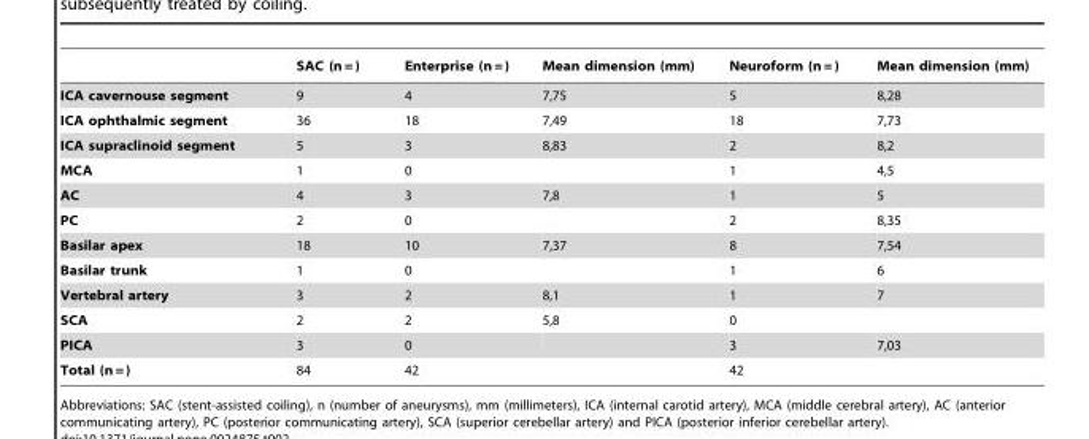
<table><thead><tr><td></td><td>SAC (n = )</td><td>Enterprise (n = )</td><td>Mean dimension (mm)</td><td>Neuroform (n = )</td><td>Mean dimension (mm)</td></tr></thead><tbody><tr><td>ICA cavernouse segment</td><td>9</td><td>4</td><td>7,75</td><td>5</td><td>8,28</td></tr><tr><td>ICA ophthalmic segment</td><td>36</td><td>18</td><td>7,49</td><td>18</td><td>7,73</td></tr><tr><td>ICA supraclinoid segment</td><td>5</td><td>3</td><td>8,83</td><td>2</td><td>8,2</td></tr><tr><td>MCA</td><td>1</td><td>0</td><td></td><td>1</td><td>4,5</td></tr><tr><td>AC</td><td>4</td><td>3</td><td>7,8</td><td>1</td><td>5</td></tr><tr><td>PC</td><td>2</td><td>0</td><td></td><td>2</td><td>8,35</td></tr><tr><td>Basilar apex</td><td>18</td><td>10</td><td>7,37</td><td>8</td><td>7,54</td></tr><tr><td>Basilar trunk</td><td>1</td><td>0</td><td></td><td>1</td><td>6</td></tr><tr><td>Vertebral artery</td><td>3</td><td>2</td><td>8,1</td><td>1</td><td>7</td></tr><tr><td>SCA</td><td>2</td><td>2</td><td>5,8</td><td>0</td><td></td></tr><tr><td>PICA</td><td>3</td><td>0</td><td></td><td>3</td><td>7,03</td></tr><tr><td>Total (n = )</td><td>84</td><td>42</td><td></td><td>42</td><td></td></tr></tbody></table>